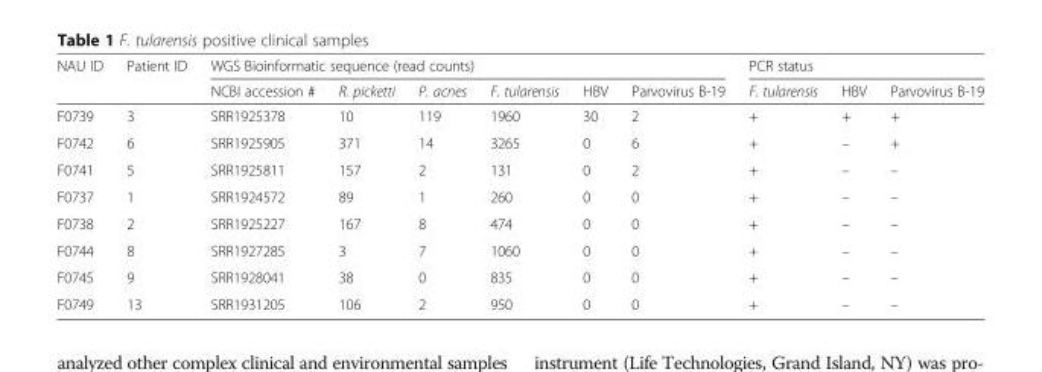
<table><thead><tr><td rowspan="2">NAU ID</td><td rowspan="2">Patient ID</td><td colspan="6">WGS Bioinformatic sequence (read counts)</td><td colspan="3">PCR status</td></tr><tr><td>NCBI accession #</td><td>R. picketti</td><td>P. acnes</td><td>F. tularensis</td><td>HBV</td><td>Parvovirus B-19</td><td>F. tularensis</td><td>HBV</td><td>Parvovirus B-19</td></tr></thead><tbody><tr><td>F0739</td><td>3</td><td>SRR1925378</td><td>10</td><td>119</td><td>1960</td><td>30</td><td>2</td><td>+</td><td>+</td><td>+</td></tr><tr><td>F0742</td><td>6</td><td>SRR1925905</td><td>371</td><td>14</td><td>3265</td><td>0</td><td>6</td><td>+</td><td>–</td><td>+</td></tr><tr><td>F0741</td><td>5</td><td>SRR1925811</td><td>157</td><td>2</td><td>131</td><td>0</td><td>2</td><td>+</td><td>–</td><td>–</td></tr><tr><td>F0737</td><td>1</td><td>SRR1924572</td><td>89</td><td>1</td><td>260</td><td>0</td><td>0</td><td>+</td><td>–</td><td>–</td></tr><tr><td>F0738</td><td>2</td><td>SRR1925227</td><td>167</td><td>8</td><td>474</td><td>0</td><td>0</td><td>+</td><td>–</td><td>–</td></tr><tr><td>F0744</td><td>8</td><td>SRR1927285</td><td>3</td><td>7</td><td>1060</td><td>0</td><td>0</td><td>+</td><td>–</td><td>–</td></tr><tr><td>F0745</td><td>9</td><td>SRR1928041</td><td>38</td><td>0</td><td>835</td><td>0</td><td>0</td><td>+</td><td>–</td><td>–</td></tr><tr><td>F0749</td><td>13</td><td>SRR1931205</td><td>106</td><td>2</td><td>950</td><td>0</td><td>0</td><td>+</td><td>–</td><td>–</td></tr></tbody></table>